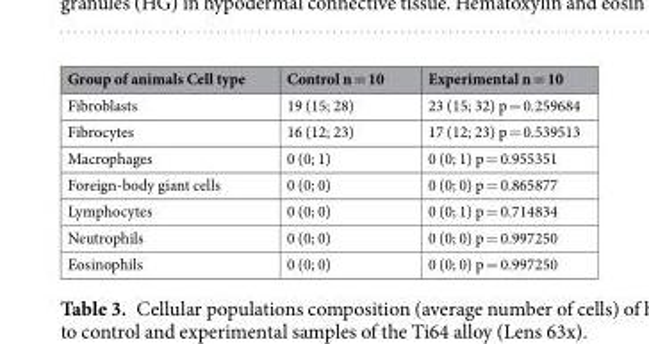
<table><thead><tr><td>Group of animals Cell type</td><td>Control n = 10</td><td>Experimental n = 10</td></tr></thead><tbody><tr><td>Fibroblasts</td><td>19 (15; 28)</td><td>23 (15; 32) р = 0.259684</td></tr><tr><td>Fibrocytes</td><td>16 (12; 23)</td><td>17 (12; 23) р = 0.539513</td></tr><tr><td>Macrophages</td><td>0 (0; 1)</td><td>0 (0; 1) р = 0.955351</td></tr><tr><td>Foreign-body giant cells</td><td>0 (0; 0)</td><td>0 (0; 0) р = 0.865877</td></tr><tr><td>Lymphocytes</td><td>0 (0; 0)</td><td>0 (0; 1) р = 0.714834</td></tr><tr><td>Neutrophils</td><td>0 (0; 0)</td><td>0 (0; 0) р = 0.997250</td></tr><tr><td>Eosinophils</td><td>0 (0; 0)</td><td>0 (0; 0) р = 0.997250</td></tr></tbody></table>